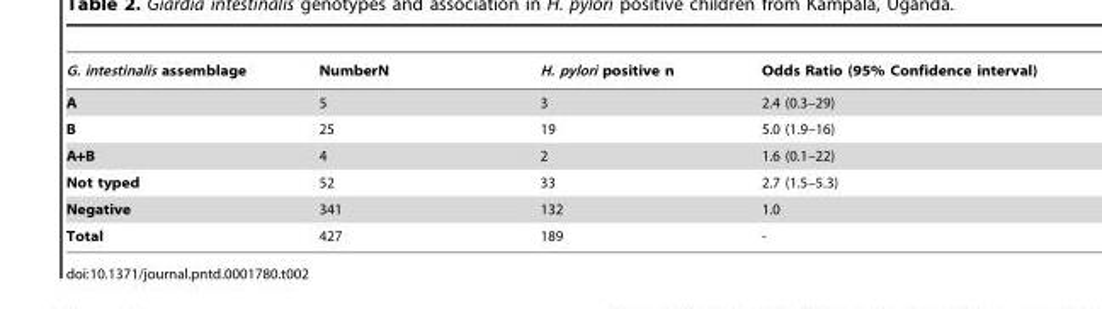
<table><thead><tr><td>G. intestinalis assemblage</td><td>NumberN</td><td>H. pylori positive n</td><td>Odds Ratio (95% Confidence interval)</td></tr></thead><tbody><tr><td>A</td><td>5</td><td>3</td><td>2.4 (0.3–29)</td></tr><tr><td>B</td><td>25</td><td>19</td><td>5.0 (1.9–16)</td></tr><tr><td>A+B</td><td>4</td><td>2</td><td>1.6 (0.1–22)</td></tr><tr><td>Not typed</td><td>52</td><td>33</td><td>2.7 (1.5–5.3)</td></tr><tr><td>Negative</td><td>341</td><td>132</td><td>1.0</td></tr><tr><td>Total</td><td>427</td><td>189</td><td>-</td></tr></tbody></table>